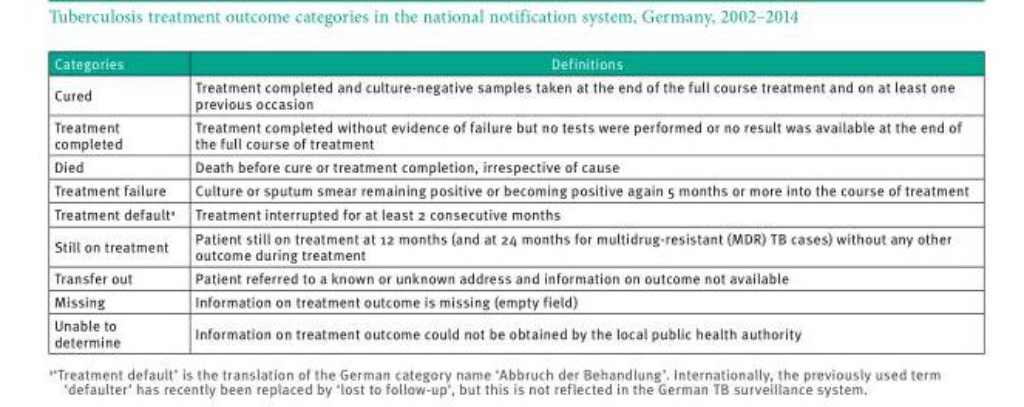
<table><thead><tr><td>Categories</td><td>Definitions</td></tr></thead><tbody><tr><td>Cured</td><td>Treatment completed and culture-negative samples taken at the end of the full course treatment and on at least one previous occasion</td></tr><tr><td>Treatment completed</td><td>Treatment completed without evidence of failure but no tests were performed or no result was available at the end of the full course of treatment</td></tr><tr><td>Died</td><td>Death before cure or treatment completion, irrespective of cause</td></tr><tr><td>Treatment failure</td><td>Culture or sputum smear remaining positive or becoming positive again 5 months or more into the course of treatment</td></tr><tr><td>Treatment default<sup>a</sup></td><td>Treatment interrupted for at least 2 consecutive months</td></tr><tr><td>Still on treatment</td><td>Patient still on treatment at 12 months (and at 24 months for multidrug-resistant (MDR) TB cases) without any other outcome during treatment</td></tr><tr><td>Transfer out</td><td>Patient referred to a known or unknown address and information on outcome not available</td></tr><tr><td>Missing</td><td>Information on treatment outcome is missing (empty field)</td></tr><tr><td>Unable to determine</td><td>Information on treatment outcome could not be obtained by the local public health authority</td></tr></tbody></table>